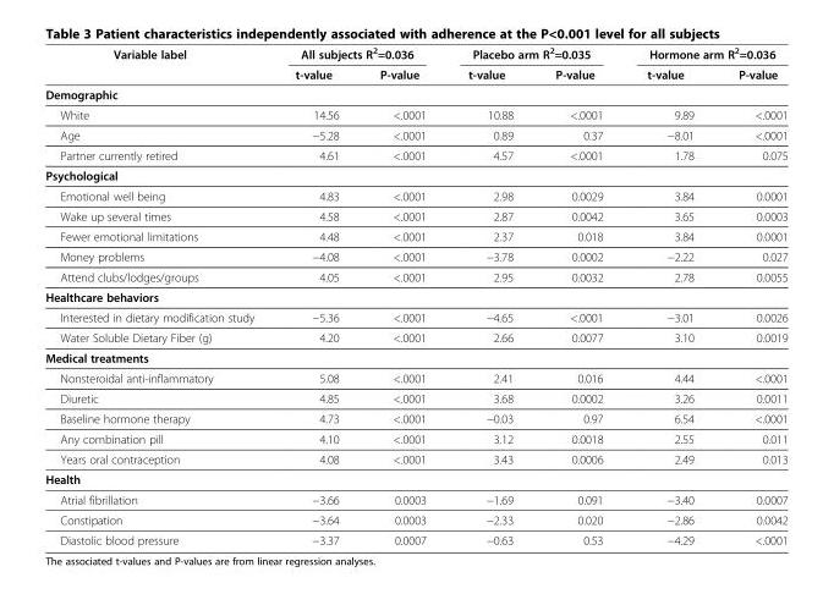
<table><thead><tr><td rowspan="2">Variable label</td><td colspan="2">All subjects R<sup>2</sup>=0.036</td><td colspan="2">Placebo arm R<sup>2</sup>=0.035</td><td colspan="2">Hormone arm R<sup>2</sup>=0.036</td></tr><tr><td>t-value</td><td>P-value</td><td>t-value</td><td>P-value</td><td>t-value</td><td>P-value</td></tr></thead><tbody><tr><td colspan="7">Demographic</td></tr><tr><td>White</td><td>14.56</td><td>&lt;.0001</td><td>10.88</td><td>&lt;.0001</td><td>9.89</td><td>&lt;.0001</td></tr><tr><td>Age</td><td>−5.28</td><td>&lt;.0001</td><td>0.89</td><td>0.37</td><td>−8.01</td><td>&lt;.0001</td></tr><tr><td>Partner currently retired</td><td>4.61</td><td>&lt;.0001</td><td>4.57</td><td>&lt;.0001</td><td>1.78</td><td>0.075</td></tr><tr><td colspan="7">Psychological</td></tr><tr><td>Emotional well being</td><td>4.83</td><td>&lt;.0001</td><td>2.98</td><td>0.0029</td><td>3.84</td><td>0.0001</td></tr><tr><td>Wake up several times</td><td>4.58</td><td>&lt;.0001</td><td>2.87</td><td>0.0042</td><td>3.65</td><td>0.0003</td></tr><tr><td>Fewer emotional limitations</td><td>4.48</td><td>&lt;.0001</td><td>2.37</td><td>0.018</td><td>3.84</td><td>0.0001</td></tr><tr><td>Money problems</td><td>−4.08</td><td>&lt;.0001</td><td>−3.78</td><td>0.0002</td><td>−2.22</td><td>0.027</td></tr><tr><td>Attend clubs/lodges/groups</td><td>4.05</td><td>&lt;.0001</td><td>2.95</td><td>0.0032</td><td>2.78</td><td>0.0055</td></tr><tr><td colspan="7">Healthcare behaviors</td></tr><tr><td>Interested in dietary modification study</td><td>−5.36</td><td>&lt;.0001</td><td>−4.65</td><td>&lt;.0001</td><td>−3.01</td><td>0.0026</td></tr><tr><td>Water Soluble Dietary Fiber (g)</td><td>4.20</td><td>&lt;.0001</td><td>2.66</td><td>0.0077</td><td>3.10</td><td>0.0019</td></tr><tr><td colspan="7">Medical treatments</td></tr><tr><td>Nonsteroidal anti-inflammatory</td><td>5.08</td><td>&lt;.0001</td><td>2.41</td><td>0.016</td><td>4.44</td><td>&lt;.0001</td></tr><tr><td>Diuretic</td><td>4.85</td><td>&lt;.0001</td><td>3.68</td><td>0.0002</td><td>3.26</td><td>0.0011</td></tr><tr><td>Baseline hormone therapy</td><td>4.73</td><td>&lt;.0001</td><td>−0.03</td><td>0.97</td><td>6.54</td><td>&lt;.0001</td></tr><tr><td>Any combination pill</td><td>4.10</td><td>&lt;.0001</td><td>3.12</td><td>0.0018</td><td>2.55</td><td>0.011</td></tr><tr><td>Years oral contraception</td><td>4.08</td><td>&lt;.0001</td><td>3.43</td><td>0.0006</td><td>2.49</td><td>0.013</td></tr><tr><td colspan="7">Health</td></tr><tr><td>Atrial fibrillation</td><td>−3.66</td><td>0.0003</td><td>−1.69</td><td>0.091</td><td>−3.40</td><td>0.0007</td></tr><tr><td>Constipation</td><td>−3.64</td><td>0.0003</td><td>−2.33</td><td>0.020</td><td>−2.86</td><td>0.0042</td></tr><tr><td>Diastolic blood pressure</td><td>−3.37</td><td>0.0007</td><td>−0.63</td><td>0.53</td><td>−4.29</td><td>&lt;.0001</td></tr></tbody></table>